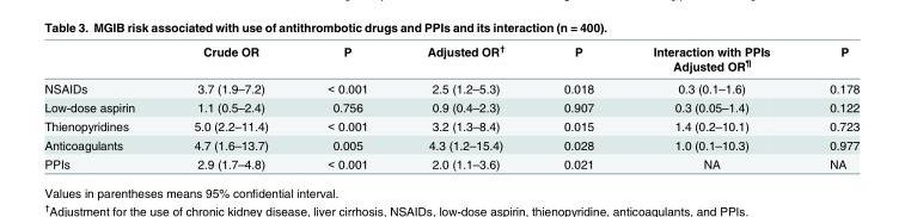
<table><thead><tr><td></td><td>Crude OR</td><td>P</td><td>Adjusted OR<sup>†</sup></td><td>P</td><td>Interaction with PPIs Adjusted OR<sup>¶</sup></td><td>P</td></tr></thead><tbody><tr><td>NSAIDs</td><td>3.7 (1.9–7.2)</td><td>&lt; 0.001</td><td>2.5 (1.2–5.3)</td><td>0.018</td><td>0.3 (0.1–1.6)</td><td>0.178</td></tr><tr><td>Low-dose aspirin</td><td>1.1 (0.5–2.4)</td><td>0.756</td><td>0.9 (0.4–2.3)</td><td>0.907</td><td>0.3 (0.05–1.4)</td><td>0.122</td></tr><tr><td>Thienopyridines</td><td>5.0 (2.2–11.4)</td><td>&lt; 0.001</td><td>3.2 (1.3–8.4)</td><td>0.015</td><td>1.4 (0.2–10.1)</td><td>0.723</td></tr><tr><td>Anticoagulants</td><td>4.7 (1.6–13.7)</td><td>0.005</td><td>4.3 (1.2–15.4)</td><td>0.028</td><td>1.0 (0.1–10.3)</td><td>0.977</td></tr><tr><td>PPIs</td><td>2.9 (1.7–4.8)</td><td>&lt; 0.001</td><td>2.0 (1.1–3.6)</td><td>0.021</td><td>NA</td><td>NA</td></tr></tbody></table>